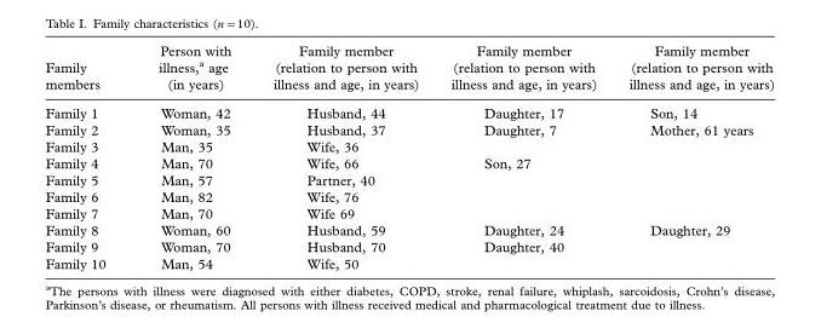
<table><thead><tr><td>Family members</td><td>Person with illness,<sup>a</sup> age (in years)</td><td>Family member (relation to person with illness and age, in years)</td><td>Family member (relation to person with illness and age, in years)</td><td>Family member (relation to person with illness and age, in years)</td></tr></thead><tbody><tr><td>Family 1</td><td>Woman, 42</td><td>Husband, 44</td><td>Daughter, 17</td><td>Son, 14</td></tr><tr><td>Family 2</td><td>Woman, 35</td><td>Husband, 37</td><td>Daughter, 7</td><td>Mother, 61 years</td></tr><tr><td>Family 3</td><td>Man, 35</td><td>Wife, 36</td><td></td><td></td></tr><tr><td>Family 4</td><td>Man, 70</td><td>Wife, 66</td><td>Son, 27</td><td></td></tr><tr><td>Family 5</td><td>Man, 57</td><td>Partner, 40</td><td></td><td></td></tr><tr><td>Family 6</td><td>Man, 82</td><td>Wife, 76</td><td></td><td></td></tr><tr><td>Family 7</td><td>Man, 70</td><td>Wife 69</td><td></td><td></td></tr><tr><td>Family 8</td><td>Woman, 60</td><td>Husband, 59</td><td>Daughter, 24</td><td>Daughter, 29</td></tr><tr><td>Family 9</td><td>Woman, 70</td><td>Husband, 70</td><td>Daughter, 40</td><td></td></tr><tr><td>Family 10</td><td>Man, 54</td><td>Wife, 50</td><td></td><td></td></tr></tbody></table>